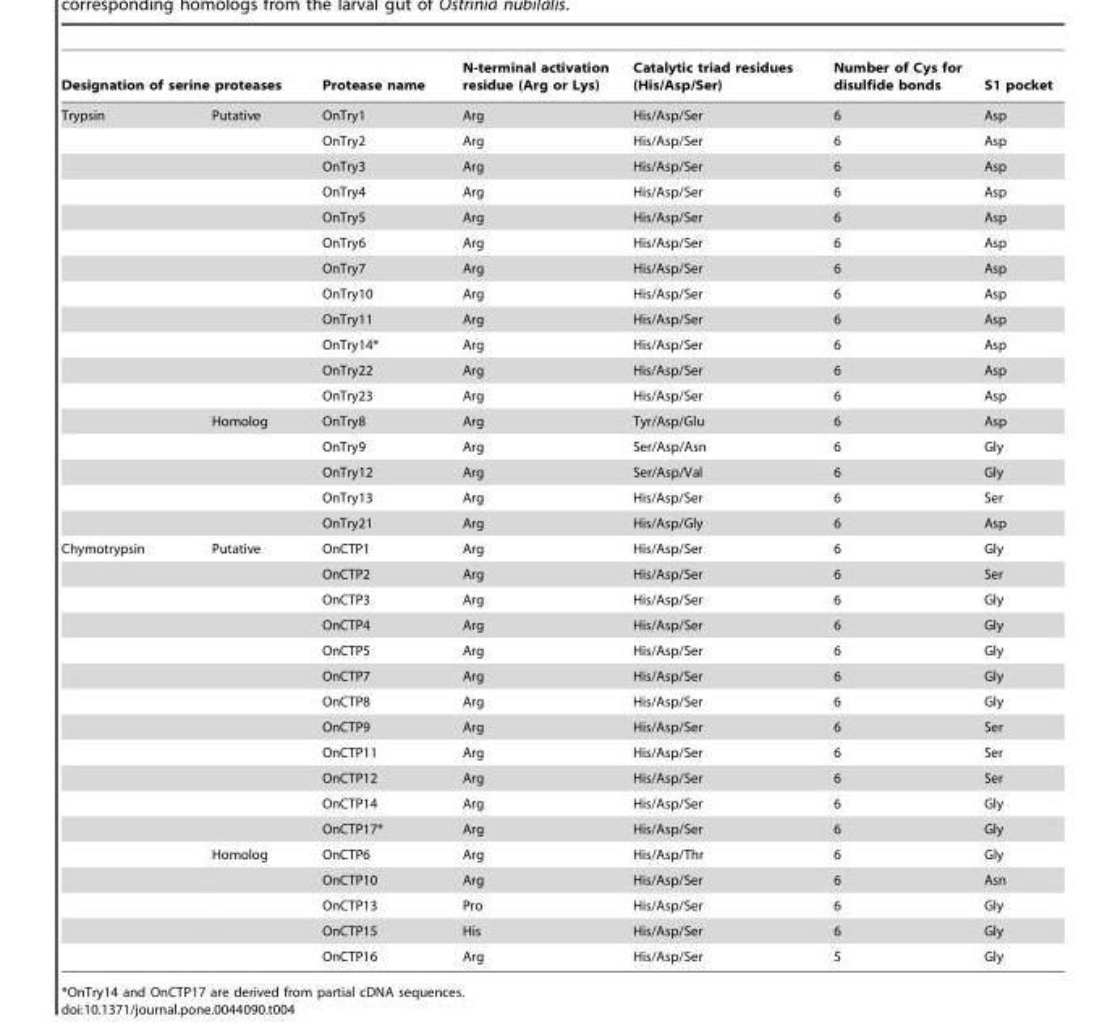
<table><thead><tr><td colspan="2">Designation of serine proteases</td><td rowspan="2">Protease name OnTry1</td><td rowspan="2">N-terminal activation residue (Arg or Lys) Arg</td><td rowspan="2">Catalytic triad residues (His/Asp/Ser) His/Asp/Ser</td><td rowspan="2">Number of Cys for disulfide bonds 6</td><td rowspan="2">S1 pocket Asp</td></tr><tr><td>Trypsin</td><td>Putative</td></tr></thead><tbody><tr><td></td><td></td><td>OnTry2</td><td>Arg</td><td>His/Asp/Ser</td><td>6</td><td>Asp</td></tr><tr><td></td><td></td><td>OnTry3</td><td>Arg</td><td>His/Asp/Ser</td><td>6</td><td>Asp</td></tr><tr><td></td><td></td><td>OnTry4</td><td>Arg</td><td>His/Asp/Ser</td><td>6</td><td>Asp</td></tr><tr><td></td><td></td><td>OnTry5</td><td>Arg</td><td>His/Asp/Ser</td><td>6</td><td>Asp</td></tr><tr><td></td><td></td><td>OnTry6</td><td>Arg</td><td>His/Asp/Ser</td><td>6</td><td>Asp</td></tr><tr><td></td><td></td><td>OnTry7</td><td>Arg</td><td>His/Asp/Ser</td><td>6</td><td>Asp</td></tr><tr><td></td><td></td><td>OnTry10</td><td>Arg</td><td>His/Asp/Ser</td><td>6</td><td>Asp</td></tr><tr><td></td><td></td><td>OnTry11</td><td>Arg</td><td>His/Asp/Ser</td><td>6</td><td>Asp</td></tr><tr><td></td><td></td><td>OnTry14*</td><td>Arg</td><td>His/Asp/Ser</td><td>6</td><td>Asp</td></tr><tr><td></td><td></td><td>OnTry22</td><td>Arg</td><td>His/Asp/Ser</td><td>6</td><td>Asp</td></tr><tr><td></td><td></td><td>OnTry23</td><td>Arg</td><td>His/Asp/Ser</td><td>6</td><td>Asp</td></tr><tr><td></td><td>Homolog</td><td>OnTry8</td><td>Arg</td><td>Tyr/Asp/Glu</td><td>6</td><td>Asp</td></tr><tr><td></td><td></td><td>OnTry9</td><td>Arg</td><td>Ser/Asp/Asn</td><td>6</td><td>Gly</td></tr><tr><td></td><td></td><td>OnTry12</td><td>Arg</td><td>Ser/Asp/Val</td><td>6</td><td>Gly</td></tr><tr><td></td><td></td><td>OnTry13</td><td>Arg</td><td>His/Asp/Ser</td><td>6</td><td>Ser</td></tr><tr><td></td><td></td><td>OnTry21</td><td>Arg</td><td>His/Asp/Gly</td><td>6</td><td>Asp</td></tr><tr><td rowspan="17">Chymotrypsin</td><td>Putative</td><td>OnCTP1</td><td>Arg</td><td>His/Asp/Ser</td><td>6</td><td>Gly</td></tr><tr><td></td><td>OnCTP2</td><td>Arg</td><td>His/Asp/Ser</td><td>6</td><td>Ser</td></tr><tr><td></td><td>OnCTP3</td><td>Arg</td><td>His/Asp/Ser</td><td>6</td><td>Gly</td></tr><tr><td></td><td>OnCTP4</td><td>Arg</td><td>His/Asp/Ser</td><td>6</td><td>Gly</td></tr><tr><td></td><td>OnCTP5</td><td>Arg</td><td>His/Asp/Ser</td><td>6</td><td>Gly</td></tr><tr><td></td><td>OnCTP7</td><td>Arg</td><td>His/Asp/Ser</td><td>6</td><td>Gly</td></tr><tr><td></td><td>OnCTP8</td><td>Arg</td><td>His/Asp/Ser</td><td>6</td><td>Gly</td></tr><tr><td></td><td>OnCTP9</td><td>Arg</td><td>His/Asp/Ser</td><td>6</td><td>Ser</td></tr><tr><td></td><td>OnCTP11</td><td>Arg</td><td>His/Asp/Ser</td><td>6</td><td>Ser</td></tr><tr><td></td><td>OnCTP12</td><td>Arg</td><td>His/Asp/Ser</td><td>6</td><td>Ser</td></tr><tr><td></td><td>OnCTP14</td><td>Arg</td><td>His/Asp/Ser</td><td>6</td><td>Gly</td></tr><tr><td></td><td>OnCTP17*</td><td>Arg</td><td>His/Asp/Ser</td><td>6</td><td>Gly</td></tr><tr><td>Homolog</td><td>OnCTP6</td><td>Arg</td><td>His/Asp/Thr</td><td>6</td><td>Gly</td></tr><tr><td></td><td>OnCTP10</td><td>Arg</td><td>His/Asp/Ser</td><td>6</td><td>Asn</td></tr><tr><td></td><td>OnCTP13</td><td>Pro</td><td>His/Asp/Ser</td><td>6</td><td>Gly</td></tr><tr><td></td><td>OnCTP15</td><td>His</td><td>His/Asp/Ser</td><td>6</td><td>Gly</td></tr><tr><td></td><td>OnCTP16</td><td>Arg</td><td>His/Asp/Ser</td><td>5</td><td>Gly</td></tr></tbody></table>